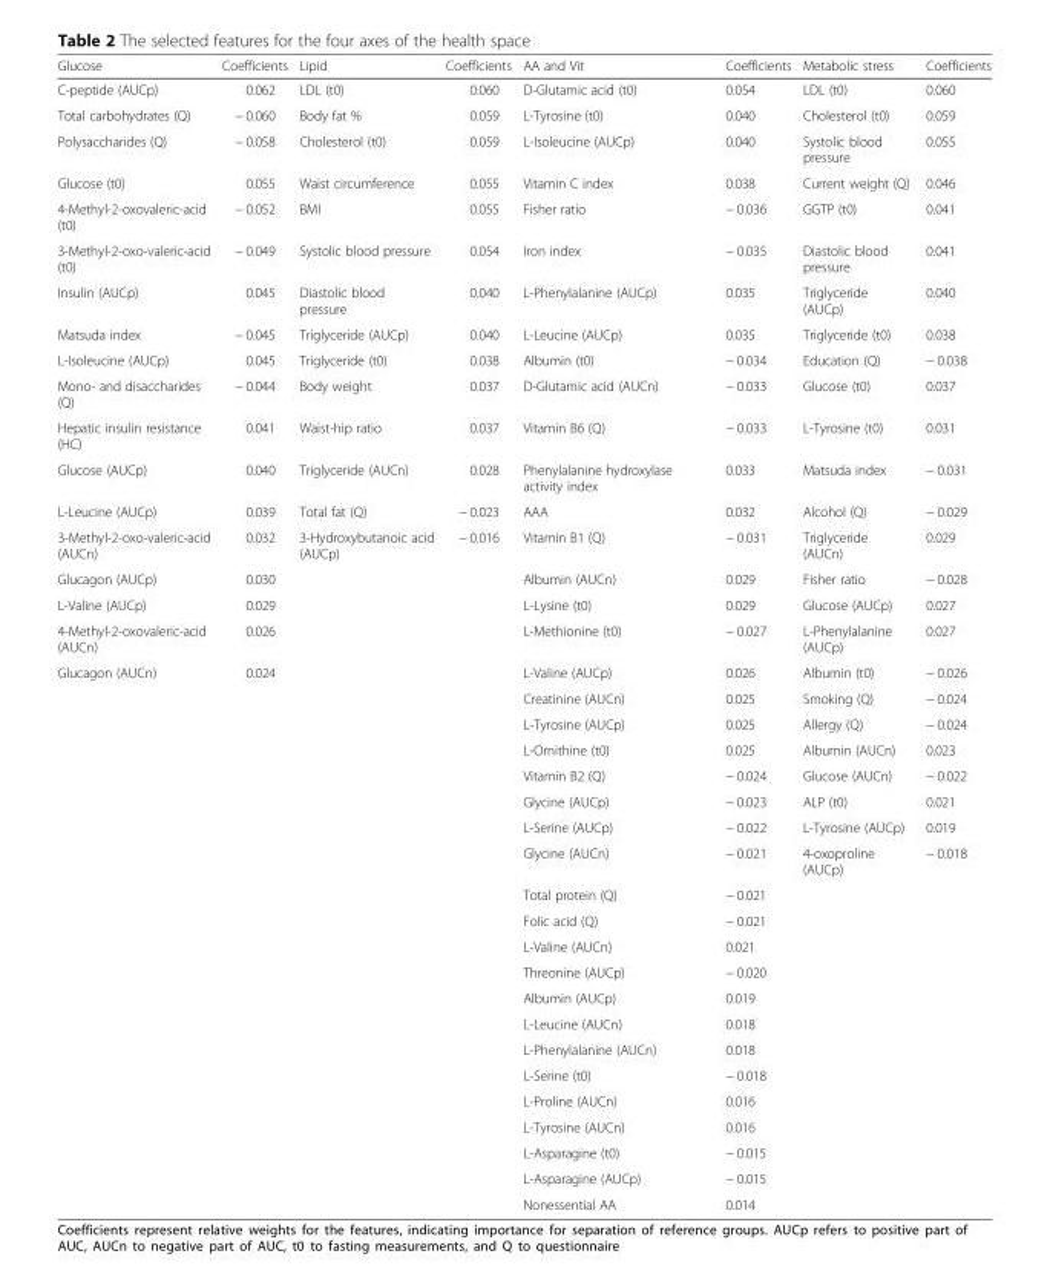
<table><thead><tr><td>Glucose</td><td>Coefficients</td><td>Lipid</td><td>Coefficients</td><td>AA and Vit</td><td>Coefficients</td><td>Metabolic stress</td><td>Coefficients</td></tr></thead><tbody><tr><td>C-peptide (AUCp)</td><td>0.062</td><td>LDL (t0)</td><td>0.060</td><td>D-Glutamic acid (t0)</td><td>0.054</td><td>LDL (t0)</td><td>0.060</td></tr><tr><td>Total carbohydrates (Q)</td><td>− 0.060</td><td>Body fat %</td><td>0.059</td><td>L-Tyrosine (t0)</td><td>0.040</td><td>Cholesterol (t0)</td><td>0.059</td></tr><tr><td>Polysaccharides (Q)</td><td>− 0.058</td><td>Cholesterol (t0)</td><td>0.059</td><td>L-Isoleucine (AUCp)</td><td>0.040</td><td>Systolic blood pressure</td><td>0.055</td></tr><tr><td>Glucose (t0)</td><td>0.055</td><td>Waist circumference</td><td>0.055</td><td>Vitamin C index</td><td>0.038</td><td>Current weight (Q)</td><td>0.046</td></tr><tr><td>4-Methyl-2-oxovaleric-acid (t0)</td><td>− 0.052</td><td>BMI</td><td>0.055</td><td>Fisher ratio</td><td>− 0.036</td><td>GGTP (t0)</td><td>0.041</td></tr><tr><td>3-Methyl-2-oxo-valeric-acid (t0)</td><td>− 0.049</td><td>Systolic blood pressure</td><td>0.054</td><td>Iron index</td><td>− 0.035</td><td>Diastolic blood pressure</td><td>0.041</td></tr><tr><td>Insulin (AUCp)</td><td>0.045</td><td>Diastolic blood pressure</td><td>0.040</td><td>L-Phenylalanine (AUCp)</td><td>0.035</td><td>Triglyceride (AUCp)</td><td>0.040</td></tr><tr><td>Matsuda index</td><td>− 0.045</td><td>Triglyceride (AUCp)</td><td>0.040</td><td>L-Leucine (AUCp)</td><td>0.035</td><td>Triglyceride (t0)</td><td>0.038</td></tr><tr><td>L-Isoleucine (AUCp)</td><td>0.045</td><td>Triglyceride (t0)</td><td>0.038</td><td>Albumin (t0)</td><td>− 0.034</td><td>Education (Q)</td><td>− 0.038</td></tr><tr><td>Mono- and disaccharides (Q)</td><td>− 0.044</td><td>Body weight</td><td>0.037</td><td>D-Glutamic acid (AUCn)</td><td>− 0.033</td><td>Glucose (t0)</td><td>0.037</td></tr><tr><td>Hepatic insulin resistance (HC)</td><td>0.041</td><td>Waist-hip ratio</td><td>0.037</td><td>Vitamin B6 (Q)</td><td>− 0.033</td><td>L-Tyrosine (t0)</td><td>0.031</td></tr><tr><td>Glucose (AUCp)</td><td>0.040</td><td>Triglyceride (AUCn)</td><td>0.028</td><td>Phenylalanine hydroxylase activity index</td><td>0.033</td><td>Matsuda index</td><td>− 0.031</td></tr><tr><td>L-Leucine (AUCp)</td><td>0.039</td><td>Total fat (Q)</td><td>− 0.023</td><td>AAA</td><td>0.032</td><td>Alcohol (Q)</td><td>− 0.029</td></tr><tr><td>3-Methyl-2-oxo-valeric-acid (AUCn)</td><td>0.032</td><td>3-Hydroxybutanoic acid (AUCp)</td><td>− 0.016</td><td>Vitamin B1 (Q)</td><td>− 0.031</td><td>Triglyceride (AUCn)</td><td>0.029</td></tr><tr><td>Glucagon (AUCp)</td><td>0.030</td><td></td><td></td><td>Albumin (AUCn)</td><td>0.029</td><td>Fisher ratio</td><td>− 0.028</td></tr><tr><td>L-Valine (AUCp)</td><td>0.029</td><td></td><td></td><td>L-Lysine (t0)</td><td>0.029</td><td>Glucose (AUCp)</td><td>0.027</td></tr><tr><td>4-Methyl-2-oxovaleric-acid (AUCn)</td><td>0.026</td><td></td><td></td><td>L-Methionine (t0)</td><td>− 0.027</td><td>L-Phenylalanine (AUCp)</td><td>0.027</td></tr><tr><td rowspan="21">Glucagon (AUCn)</td><td>0.024</td><td></td><td></td><td>L-Valine (AUCp)</td><td>0.026</td><td>Albumin (t0)</td><td>− 0.026</td></tr><tr><td></td><td></td><td></td><td>Creatinine (AUCn)</td><td>0.025</td><td>Smoking (Q)</td><td>− 0.024</td></tr><tr><td></td><td></td><td></td><td>L-Tyrosine (AUCp)</td><td>0.025</td><td>Allergy (Q)</td><td>− 0.024</td></tr><tr><td></td><td></td><td></td><td>L-Ornithine (t0)</td><td>0.025</td><td>Albumin (AUCn)</td><td>0.023</td></tr><tr><td></td><td></td><td></td><td>Vitamin B2 (Q)</td><td>− 0.024</td><td>Glucose (AUCn)</td><td>− 0.022</td></tr><tr><td></td><td></td><td></td><td>Glycine (AUCp)</td><td>− 0.023</td><td>ALP (t0)</td><td>0.021</td></tr><tr><td></td><td></td><td></td><td>L-Serine (AUCp)</td><td>− 0.022</td><td>L-Tyrosine (AUCp)</td><td>0.019</td></tr><tr><td></td><td></td><td></td><td>Glycine (AUCn)</td><td>− 0.021</td><td>4-oxoproline (AUCp)</td><td>− 0.018</td></tr><tr><td></td><td></td><td></td><td>Total protein (Q)</td><td>− 0.021</td><td></td><td></td></tr><tr><td></td><td></td><td></td><td>Folic acid (Q)</td><td>− 0.021</td><td></td><td></td></tr><tr><td></td><td></td><td></td><td>L-Valine (AUCn)</td><td>0.021</td><td></td><td></td></tr><tr><td></td><td></td><td></td><td>Threonine (AUCp)</td><td>− 0.020</td><td></td><td></td></tr><tr><td></td><td></td><td></td><td>Albumin (AUCp)</td><td>0.019</td><td></td><td></td></tr><tr><td></td><td></td><td></td><td>L-Leucine (AUCn)</td><td>0.018</td><td></td><td></td></tr><tr><td></td><td></td><td></td><td>L-Phenylalanine (AUCn)</td><td>0.018</td><td></td><td></td></tr><tr><td></td><td></td><td></td><td>L-Serine (t0)</td><td>− 0.018</td><td></td><td></td></tr><tr><td></td><td></td><td></td><td>L-Proline (AUCn)</td><td>0.016</td><td></td><td></td></tr><tr><td></td><td></td><td></td><td>L-Tyrosine (AUCn)</td><td>0.016</td><td></td><td></td></tr><tr><td></td><td></td><td></td><td>L-Asparagine (t0)</td><td>− 0.015</td><td></td><td></td></tr><tr><td></td><td></td><td></td><td>L-Asparagine (AUCp)</td><td>− 0.015</td><td></td><td></td></tr><tr><td></td><td></td><td></td><td>Nonessential AA</td><td>0.014</td><td></td><td></td></tr></tbody></table>